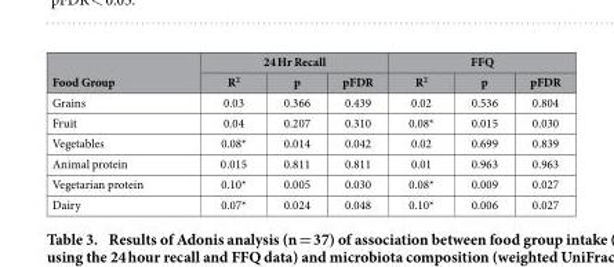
<table><thead><tr><td rowspan="2">Food Group</td><td colspan="3">24 Hr Recall</td><td colspan="3">FFQ</td></tr><tr><td>R<sup>2</sup></td><td>p</td><td>pFDR</td><td>R<sup>2</sup></td><td>p</td><td>pFDR</td></tr></thead><tbody><tr><td>Grains</td><td>0.03</td><td>0.366</td><td>0.439</td><td>0.02</td><td>0.536</td><td>0.804</td></tr><tr><td>Fruit</td><td>0.04</td><td>0.207</td><td>0.310</td><td>0.08*</td><td>0.015</td><td>0.030</td></tr><tr><td>Vegetables</td><td>0.08*</td><td>0.014</td><td>0.042</td><td>0.02</td><td>0.699</td><td>0.839</td></tr><tr><td>Animal protein</td><td>0.015</td><td>0.811</td><td>0.811</td><td>0.01</td><td>0.963</td><td>0.963</td></tr><tr><td>Vegetarian protein</td><td>0.10*</td><td>0.005</td><td>0.030</td><td>0.08*</td><td>0.009</td><td>0.027</td></tr><tr><td>Dairy</td><td>0.07*</td><td>0.024</td><td>0.048</td><td>0.10*</td><td>0.006</td><td>0.027</td></tr></tbody></table>